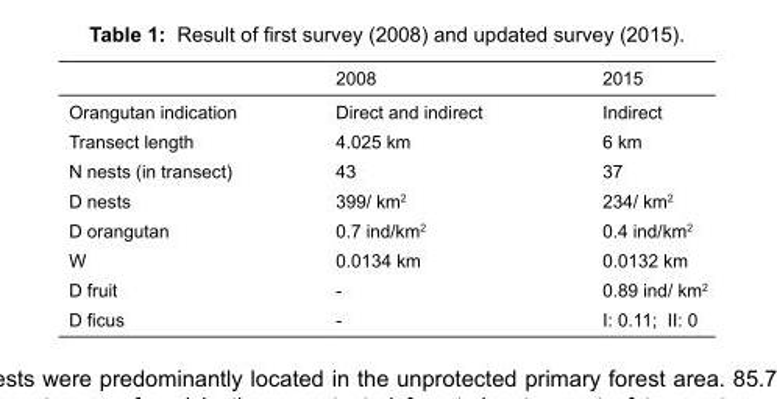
<table><thead><tr><td></td><td>2008</td><td>2015</td></tr></thead><tbody><tr><td>Orangutan indication</td><td>Direct and indirect</td><td>Indirect</td></tr><tr><td>Transect length</td><td>4.025 km</td><td>6 km</td></tr><tr><td>N nests (in transect)</td><td>43</td><td>37</td></tr><tr><td>D nests</td><td>399/ km<sup>2</sup></td><td>234/ km<sup>2</sup></td></tr><tr><td>D orangutan</td><td>0.7 ind/km<sup>2</sup></td><td>0.4 ind/km<sup>2</sup></td></tr><tr><td>W</td><td>0.0134 km</td><td>0.0132 km</td></tr><tr><td>D fruit</td><td>-</td><td>0.89 ind/ km<sup>2</sup></td></tr><tr><td>D ficus</td><td>-</td><td>I: 0.11; II: 0</td></tr></tbody></table>